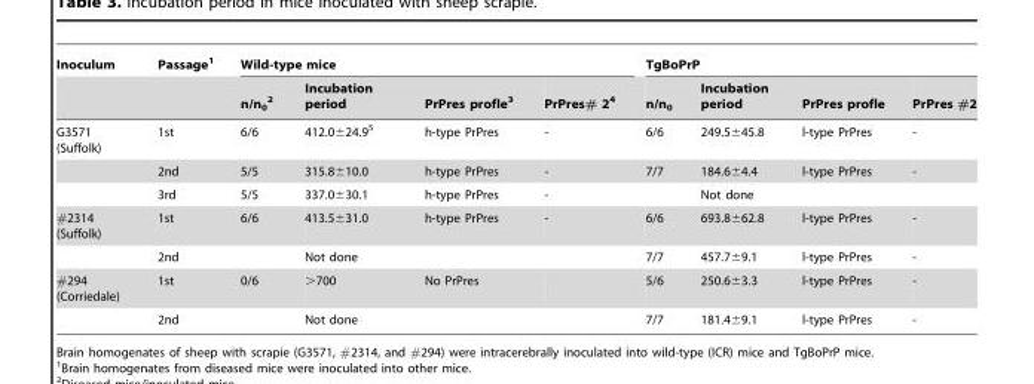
<table><thead><tr><td rowspan="2">Inoculum</td><td rowspan="2">Passage<sup>1</sup></td><td colspan="4">Wild-type mice</td><td colspan="4">TgBoPrP</td></tr><tr><td>n/n<sub>0</sub> 2</td><td>Incubation period</td><td>PrPres profle<sup>3</sup></td><td>PrPres# 2<sup>4</sup></td><td>n/n<sub>0</sub></td><td>Incubation period</td><td>PrPres profle</td><td>PrPres #2</td></tr></thead><tbody><tr><td rowspan="3">G3571 (Suffolk)</td><td>1st</td><td>6/6</td><td>412.0±24.9<sup>5</sup></td><td>h-type PrPres</td><td>-</td><td>6/6</td><td>249.5±45.8</td><td>l-type PrPres</td><td>-</td></tr><tr><td>2nd</td><td>5/5</td><td>315.8±10.0</td><td>h-type PrPres</td><td>-</td><td>7/7</td><td>184.6±4.4</td><td>l-type PrPres</td><td>-</td></tr><tr><td>3rd</td><td>5/5</td><td>337.0±30.1</td><td>h-type PrPres</td><td>-</td><td></td><td>Not done</td><td></td><td></td></tr><tr><td rowspan="2">#2314 (Suffolk)</td><td>1st</td><td>6/6</td><td>413.5±31.0</td><td>h-type PrPres</td><td>-</td><td>6/6</td><td>693.8±62.8</td><td>l-type PrPres</td><td>-</td></tr><tr><td>2nd</td><td></td><td>Not done</td><td></td><td></td><td>7/7</td><td>457.7±9.1</td><td>l-type PrPres</td><td>-</td></tr><tr><td rowspan="2">#294 (Corriedale)</td><td>1st</td><td>0/6</td><td>&gt;700</td><td>No PrPres</td><td></td><td>5/6</td><td>250.6±3.3</td><td>l-type PrPres</td><td>-</td></tr><tr><td>2nd</td><td></td><td>Not done</td><td></td><td></td><td>7/7</td><td>181.4±9.1</td><td>l-type PrPres</td><td>-</td></tr></tbody></table>